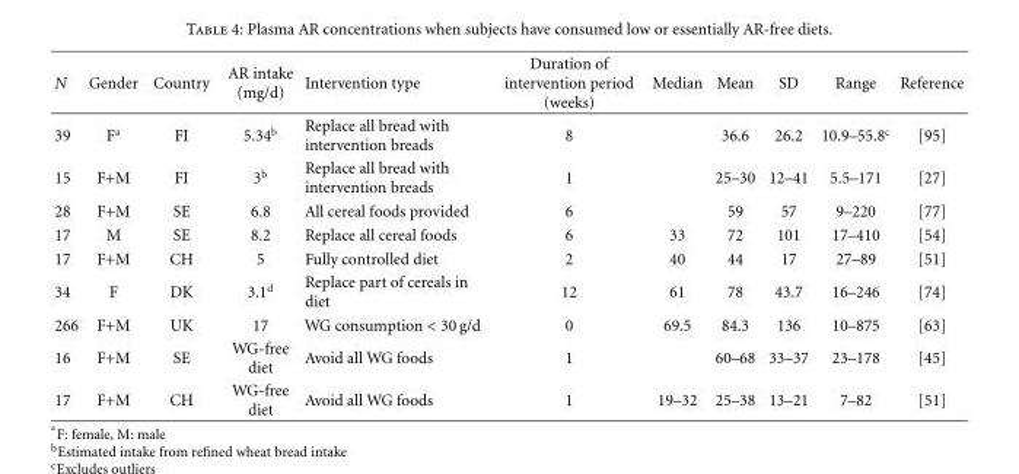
<table><thead><tr><td>N</td><td>Gender</td><td>Country</td><td>AR intake (mg/d)</td><td>Intervention type</td><td>Duration of intervention period (weeks)</td><td>Median</td><td>Mean</td><td>SD</td><td>Range</td><td>Reference</td></tr></thead><tbody><tr><td>39</td><td>F<sup>a</sup></td><td>FI</td><td>5.34<sup>b</sup></td><td>Replace all bread with intervention breads</td><td>8</td><td></td><td>36.6</td><td>26.2</td><td>10.9–55.8<sup>c</sup></td><td>[95]</td></tr><tr><td>15</td><td>F+M</td><td>FI</td><td>3<sup>b</sup></td><td>Replace all bread with intervention breads</td><td>1</td><td></td><td>25–30</td><td>12–41</td><td>5.5–171</td><td>[27]</td></tr><tr><td>28</td><td>F+M</td><td>SE</td><td>6.8</td><td>All cereal foods provided</td><td>6</td><td></td><td>59</td><td>57</td><td>9–220</td><td>[77]</td></tr><tr><td>17</td><td>M</td><td>SE</td><td>8.2</td><td>Replace all cereal foods</td><td>6</td><td>33</td><td>72</td><td>101</td><td>17–410</td><td>[54]</td></tr><tr><td>17</td><td>F+M</td><td>CH</td><td>5</td><td>Fully controlled diet</td><td>2</td><td>40</td><td>44</td><td>17</td><td>27–89</td><td>[51]</td></tr><tr><td>34</td><td>F</td><td>DK</td><td>3.1<sup>d</sup></td><td>Replace part of cereals in diet</td><td>12</td><td>61</td><td>78</td><td>43.7</td><td>16–246</td><td>[74]</td></tr><tr><td>266</td><td>F+M</td><td>UK</td><td>17</td><td>WG consumption &lt; 30 g/d</td><td>0</td><td>69.5</td><td>84.3</td><td>136</td><td>10–875</td><td>[63]</td></tr><tr><td>16</td><td>F+M</td><td>SE</td><td>WG-free diet</td><td>Avoid all WG foods</td><td>1</td><td></td><td>60–68</td><td>33–37</td><td>23–178</td><td>[45]</td></tr><tr><td>17</td><td>F+M</td><td>CH</td><td>WG-free diet</td><td>Avoid all WG foods</td><td>1</td><td>19–32</td><td>25–38</td><td>13–21</td><td>7–82</td><td>[51]</td></tr></tbody></table>